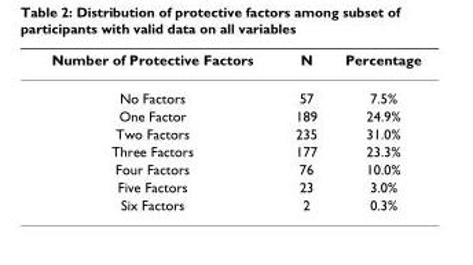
<table><thead><tr><td>Number of Protective Factors</td><td>N</td><td>Percentage</td></tr></thead><tbody><tr><td>No Factors</td><td>57</td><td>7.5%</td></tr><tr><td>One Factor</td><td>189</td><td>24.9%</td></tr><tr><td>Two Factors</td><td>235</td><td>31.0%</td></tr><tr><td>Three Factors</td><td>177</td><td>23.3%</td></tr><tr><td>Four Factors</td><td>76</td><td>10.0%</td></tr><tr><td>Five Factors</td><td>23</td><td>3.0%</td></tr><tr><td>Six Factors</td><td>2</td><td>0.3%</td></tr></tbody></table>